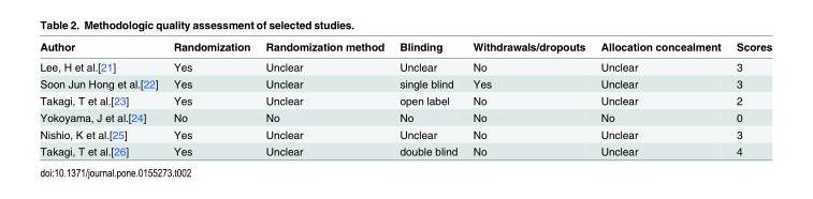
<table><thead><tr><td>Author</td><td>Randomization</td><td>Randomization method</td><td>Blinding</td><td>Withdrawals/dropouts</td><td>Allocation concealment</td><td>Scores</td></tr></thead><tbody><tr><td>Lee, H et al.[21]</td><td>Yes</td><td>Unclear</td><td>Unclear</td><td>No</td><td>Unclear</td><td>3</td></tr><tr><td>Soon Jun Hong et al.[22]</td><td>Yes</td><td>Unclear</td><td>single blind</td><td>Yes</td><td>Unclear</td><td>3</td></tr><tr><td>Takagi, T et al.[23]</td><td>Yes</td><td>Unclear</td><td>open label</td><td>No</td><td>Unclear</td><td>2</td></tr><tr><td>Yokoyama, J et al.[24]</td><td>No</td><td>No</td><td>No</td><td>No</td><td>No</td><td>0</td></tr><tr><td>Nishio, K et al.[25]</td><td>Yes</td><td>Unclear</td><td>Unclear</td><td>No</td><td>Unclear</td><td>3</td></tr><tr><td>Takagi, T et al.[26]</td><td>Yes</td><td>Unclear</td><td>double blind</td><td>No</td><td>Unclear</td><td>4</td></tr></tbody></table>